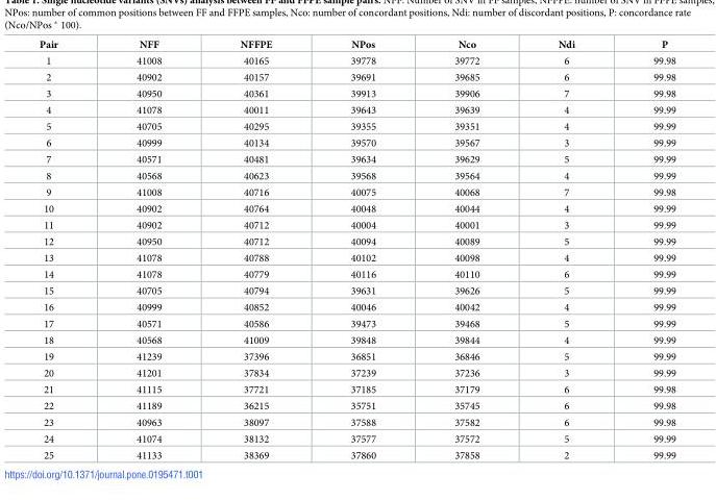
<table><thead><tr><td>Pair</td><td>NFF</td><td>NFFPE</td><td>NPos</td><td>Nco</td><td>Ndi</td><td>P</td></tr></thead><tbody><tr><td>1</td><td>41008</td><td>40165</td><td>39778</td><td>39772</td><td>6</td><td>99.98</td></tr><tr><td>2</td><td>40902</td><td>40157</td><td>39691</td><td>39685</td><td>6</td><td>99.98</td></tr><tr><td>3</td><td>40950</td><td>40361</td><td>39913</td><td>39906</td><td>7</td><td>99.98</td></tr><tr><td>4</td><td>41078</td><td>40011</td><td>39643</td><td>39639</td><td>4</td><td>99.99</td></tr><tr><td>5</td><td>40705</td><td>40295</td><td>39355</td><td>39351</td><td>4</td><td>99.99</td></tr><tr><td>6</td><td>40999</td><td>40134</td><td>39570</td><td>39567</td><td>3</td><td>99.99</td></tr><tr><td>7</td><td>40571</td><td>40481</td><td>39634</td><td>39629</td><td>5</td><td>99.99</td></tr><tr><td>8</td><td>40568</td><td>40623</td><td>39568</td><td>39564</td><td>4</td><td>99.99</td></tr><tr><td>9</td><td>41008</td><td>40716</td><td>40075</td><td>40068</td><td>7</td><td>99.98</td></tr><tr><td>10</td><td>40902</td><td>40764</td><td>40048</td><td>40044</td><td>4</td><td>99.99</td></tr><tr><td>11</td><td>40902</td><td>40712</td><td>40004</td><td>40001</td><td>3</td><td>99.99</td></tr><tr><td>12</td><td>40950</td><td>40712</td><td>40094</td><td>40089</td><td>5</td><td>99.99</td></tr><tr><td>13</td><td>41078</td><td>40788</td><td>40102</td><td>40098</td><td>4</td><td>99.99</td></tr><tr><td>14</td><td>41078</td><td>40779</td><td>40116</td><td>40110</td><td>6</td><td>99.99</td></tr><tr><td>15</td><td>40705</td><td>40794</td><td>39631</td><td>39626</td><td>5</td><td>99.99</td></tr><tr><td>16</td><td>40999</td><td>40852</td><td>40046</td><td>40042</td><td>4</td><td>99.99</td></tr><tr><td>17</td><td>40571</td><td>40586</td><td>39473</td><td>39468</td><td>5</td><td>99.99</td></tr><tr><td>18</td><td>40568</td><td>41009</td><td>39848</td><td>39844</td><td>4</td><td>99.99</td></tr><tr><td>19</td><td>41239</td><td>37396</td><td>36851</td><td>36846</td><td>5</td><td>99.99</td></tr><tr><td>20</td><td>41201</td><td>37834</td><td>37239</td><td>37236</td><td>3</td><td>99.99</td></tr><tr><td>21</td><td>41115</td><td>37721</td><td>37185</td><td>37179</td><td>6</td><td>99.98</td></tr><tr><td>22</td><td>41189</td><td>36215</td><td>35751</td><td>35745</td><td>6</td><td>99.98</td></tr><tr><td>23</td><td>40963</td><td>38097</td><td>37588</td><td>37582</td><td>6</td><td>99.98</td></tr><tr><td>24</td><td>41074</td><td>38132</td><td>37577</td><td>37572</td><td>5</td><td>99.99</td></tr><tr><td>25</td><td>41133</td><td>38369</td><td>37860</td><td>37858</td><td>2</td><td>99.99</td></tr></tbody></table>